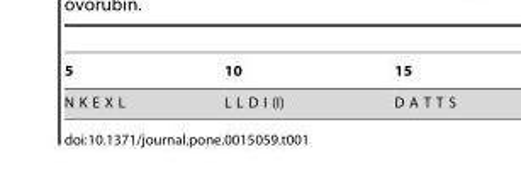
<table><thead><tr><td>5</td><td>10</td><td>15</td></tr></thead><tbody><tr><td>N K E X L</td><td>L L D I (I)</td><td>D A T T S</td></tr></tbody></table>